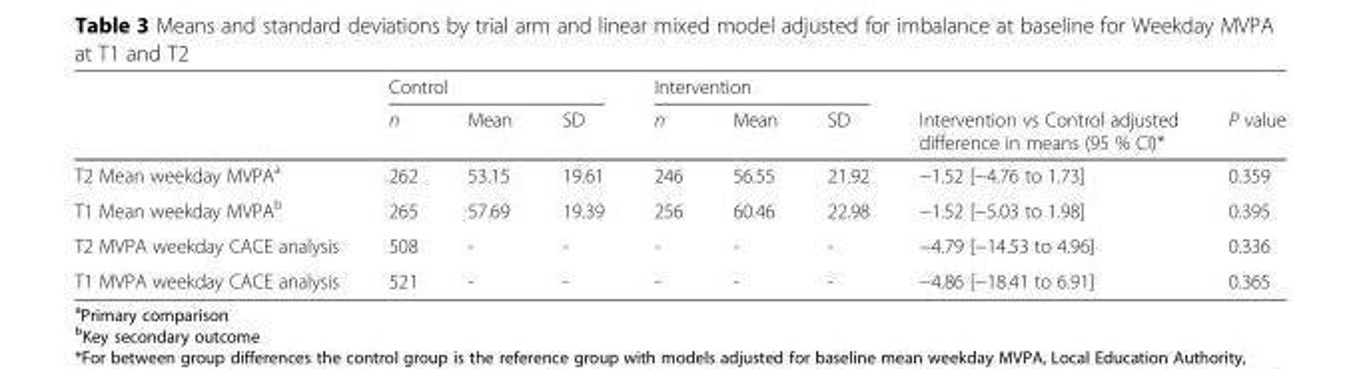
<table><thead><tr><td rowspan="2"></td><td colspan="3">Control</td><td colspan="3">Intervention</td><td rowspan="2">Intervention vs Control adjusted difference in means (95 % CI)*</td><td rowspan="2">P value</td></tr><tr><td>n</td><td>Mean</td><td>SD</td><td>n</td><td>Mean</td><td>SD</td></tr></thead><tbody><tr><td>T2 Mean weekday MVPA<sup>a</sup></td><td>262</td><td>53.15</td><td>19.61</td><td>246</td><td>56.55</td><td>21.92</td><td>−1.52 [−4.76 to 1.73]</td><td>0.359</td></tr><tr><td>T1 Mean weekday MVPA<sup>b</sup></td><td>265</td><td>57.69</td><td>19.39</td><td>256</td><td>60.46</td><td>22.98</td><td>−1.52 [−5.03 to 1.98]</td><td>0.395</td></tr><tr><td>T2 MVPA weekday CACE analysis</td><td>508</td><td>-</td><td>-</td><td>-</td><td>-</td><td>-</td><td>−4.79 [−14.53 to 4.96]</td><td>0.336</td></tr><tr><td>T1 MVPA weekday CACE analysis</td><td>521</td><td>-</td><td>-</td><td>-</td><td>-</td><td>-</td><td>−4.86 [−18.41 to 6.91]</td><td>0.365</td></tr></tbody></table>